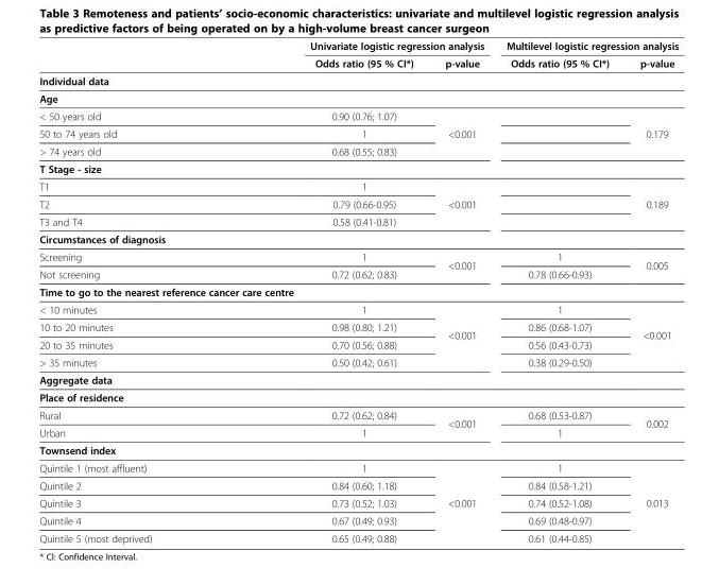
<table><thead><tr><td rowspan="2"></td><td colspan="2">Univariate logistic regression analysis</td><td colspan="2">Multilevel logistic regression analysis</td></tr><tr><td>Odds ratio (95 % CI*)</td><td>p-value</td><td>Odds ratio (95 % CI*)</td><td>p-value</td></tr></thead><tbody><tr><td colspan="5">Individual data</td></tr><tr><td colspan="5">Age</td></tr><tr><td>&lt; 50 years old</td><td>0.90 (0.76; 1.07)</td><td rowspan="3">&lt;0.001</td><td></td><td rowspan="3">0.179</td></tr><tr><td>50 to 74 years old</td><td>1</td><td></td></tr><tr><td>&gt; 74 years old</td><td>0.68 (0.55; 0.83)</td><td></td></tr><tr><td colspan="5">T Stage - size</td></tr><tr><td>T1</td><td>1</td><td rowspan="3">&lt;0.001</td><td></td><td rowspan="3">0.189</td></tr><tr><td>T2</td><td>0.79 (0.66-0.95)</td><td></td></tr><tr><td>T3 and T4</td><td>0.58 (0.41-0.81)</td><td></td></tr><tr><td colspan="5">Circumstances of diagnosis</td></tr><tr><td>Screening</td><td>1</td><td rowspan="2">&lt;0.001</td><td>1</td><td rowspan="2">0.005</td></tr><tr><td>Not screening</td><td>0.72 (0.62; 0.83)</td><td>0.78 (0.66-0.93)</td></tr><tr><td colspan="5">Time to go to the nearest reference cancer care centre</td></tr><tr><td>&lt; 10 minutes</td><td>1</td><td rowspan="4">&lt;0.001</td><td>1</td><td rowspan="4">&lt;0.001</td></tr><tr><td>10 to 20 minutes</td><td>0.98 (0.80; 1.21)</td><td>0.86 (0.68-1.07)</td></tr><tr><td>20 to 35 minutes</td><td>0.70 (0.56; 0.88)</td><td>0.56 (0.43-0.73)</td></tr><tr><td>&gt; 35 minutes</td><td>0.50 (0.42; 0.61)</td><td>0.38 (0.29-0.50)</td></tr><tr><td colspan="5">Aggregate data</td></tr><tr><td colspan="5">Place of residence</td></tr><tr><td>Rural</td><td>0.72 (0.62; 0.84)</td><td rowspan="2">&lt;0.001</td><td>0.68 (0.53-0.87)</td><td rowspan="2">0.002</td></tr><tr><td>Urban</td><td>1</td><td>1</td></tr><tr><td colspan="5">Townsend index</td></tr><tr><td>Quintile 1 (most affluent)</td><td>1</td><td rowspan="5">&lt;0.001</td><td>1</td><td rowspan="5">0.013</td></tr><tr><td>Quintile 2</td><td>0.84 (0.60; 1.18)</td><td>0.84 (0.58-1.21)</td></tr><tr><td>Quintile 3</td><td>0.73 (0.52; 1.03)</td><td>0.74 (0.52-1.08)</td></tr><tr><td>Quintile 4</td><td>0.67 (0.49; 0.93)</td><td>0.69 (0.48-0.97)</td></tr><tr><td>Quintile 5 (most deprived)</td><td>0.65 (0.49; 0.88)</td><td>0.61 (0.44-0.85)</td></tr></tbody></table>